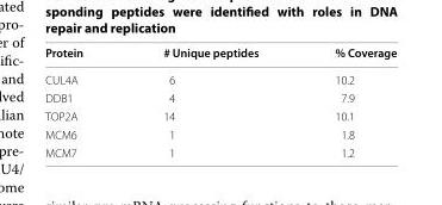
<table><thead><tr><td>Protein</td><td># Unique peptides</td><td>% Coverage</td></tr></thead><tbody><tr><td>CUL4A</td><td>6</td><td>10.2</td></tr><tr><td>DDB1</td><td>4</td><td>7.9</td></tr><tr><td>TOP2A</td><td>14</td><td>10.1</td></tr><tr><td>MCM6</td><td>1</td><td>1.8</td></tr><tr><td>MCM7</td><td>1</td><td>1.2</td></tr></tbody></table>